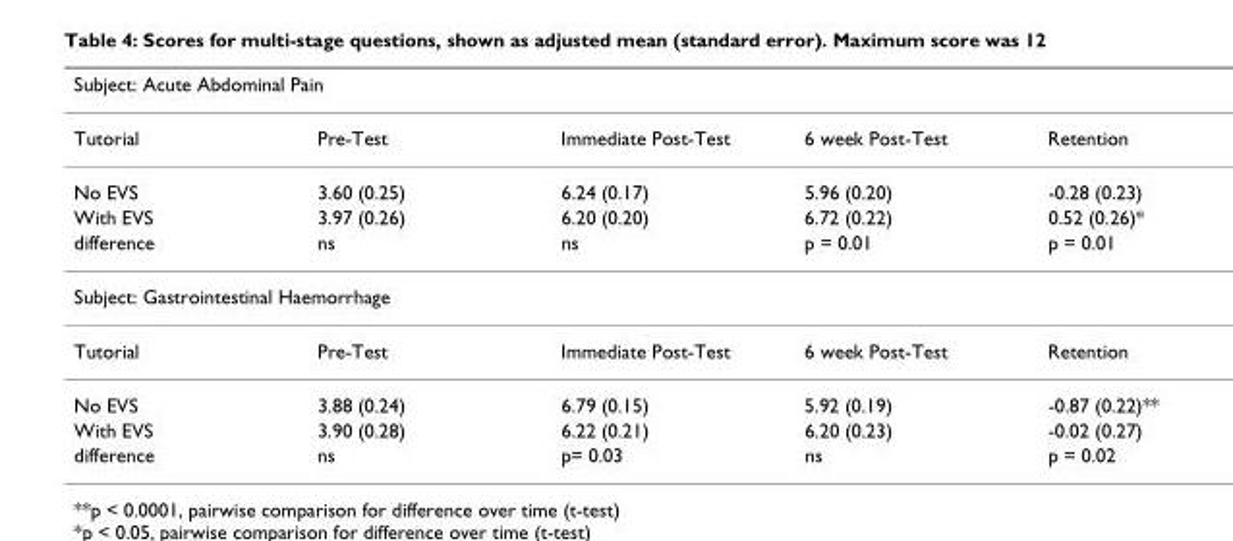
<table><thead><tr><td colspan="5">Subject: Acute Abdominal Pain</td></tr><tr><td>Tutorial</td><td>Pre-Test</td><td>Immediate Post-Test</td><td>6 week Post-Test</td><td>Retention</td></tr></thead><tbody><tr><td>No EVS</td><td>3.60 (0.25)</td><td>6.24 (0.17)</td><td>5.96 (0.20)</td><td>-0.28 (0.23)</td></tr><tr><td>With EVS</td><td>3.97 (0.26)</td><td>6.20 (0.20)</td><td>6.72 (0.22)</td><td>0.52 (0.26)*</td></tr><tr><td>difference</td><td>ns</td><td>ns</td><td>p = 0.01</td><td>p = 0.01</td></tr><tr><td colspan="5">Subject: Gastrointestinal Haemorrhage</td></tr><tr><td>Tutorial</td><td>Pre-Test</td><td>Immediate Post-Test</td><td>6 week Post-Test</td><td>Retention</td></tr><tr><td>No EVS</td><td>3.88 (0.24)</td><td>6.79 (0.15)</td><td>5.92 (0.19)</td><td>-0.87 (0.22)**</td></tr><tr><td>With EVS</td><td>3.90 (0.28)</td><td>6.22 (0.21)</td><td>6.20 (0.23)</td><td>-0.02 (0.27)</td></tr><tr><td>difference</td><td>ns</td><td>p= 0.03</td><td>ns</td><td>p = 0.02</td></tr></tbody></table>